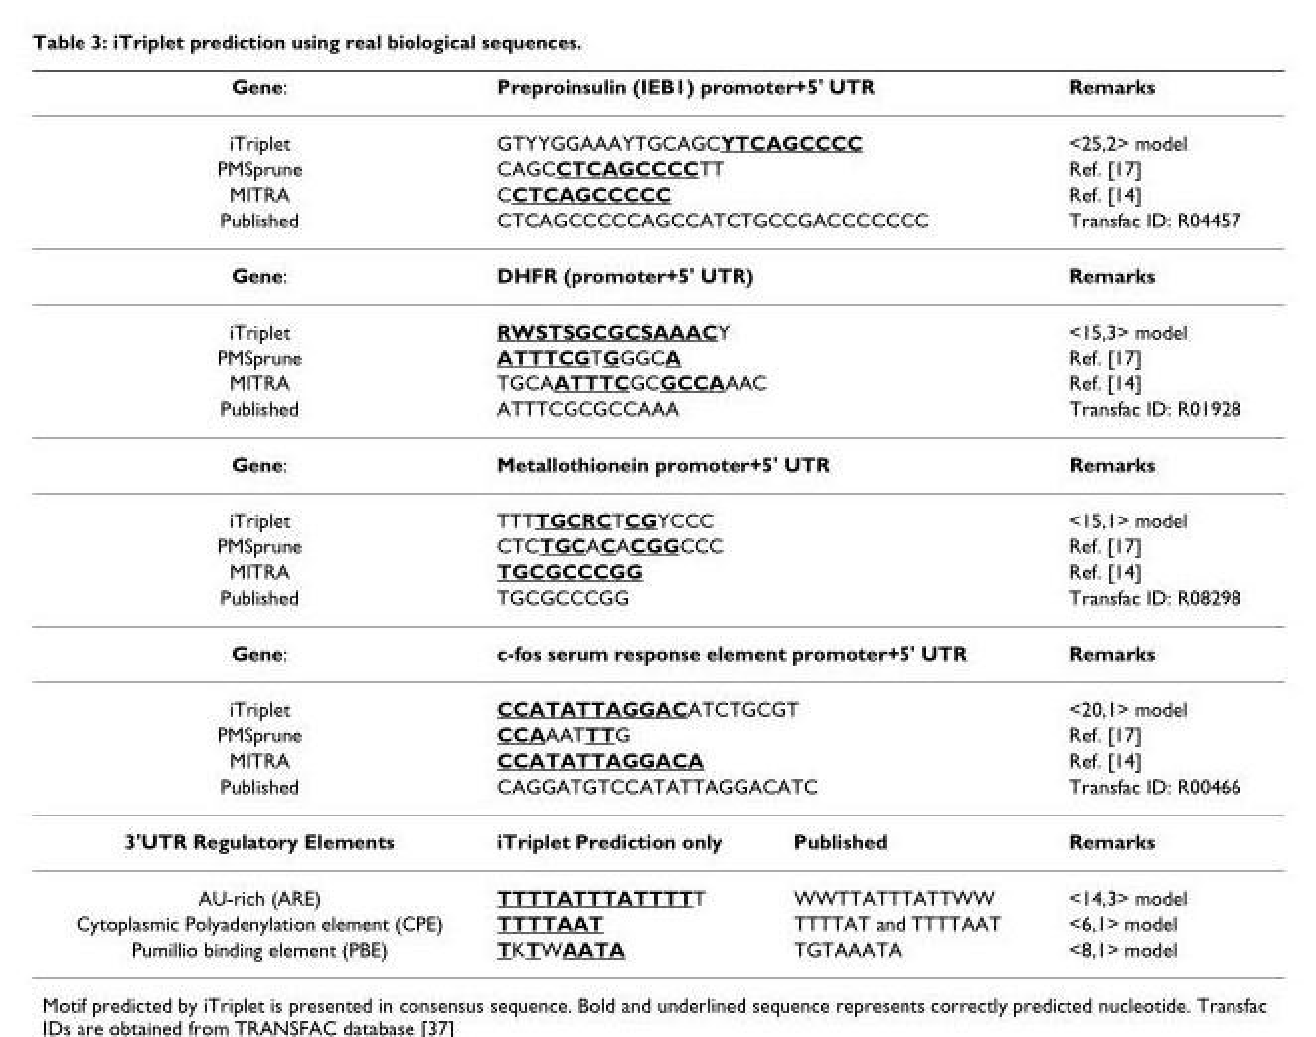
<table><thead><tr><td>Gene:</td><td colspan="2">Preproinsulin (IEB1) promoter+5&#x27; UTR</td><td>Remarks</td></tr></thead><tbody><tr><td>iTriplet</td><td colspan="2">GTYYGGAAAYTGCAGCYTCAGCCCC</td><td>&lt;25,2&gt; model</td></tr><tr><td>PMSprune</td><td colspan="2">CAGCCTCAGCCCCTT</td><td>Ref. [17]</td></tr><tr><td>MITRA</td><td colspan="2">CCTCAGCCCCC</td><td>Ref. [14]</td></tr><tr><td>Published</td><td colspan="2">CTCAGCCCCCAGCCATCTGCCGACCCCCCC</td><td>Transfac ID: R04457</td></tr><tr><td>Gene:</td><td colspan="2">DHFR (promoter+5&#x27; UTR)</td><td>Remarks</td></tr><tr><td>iTriplet</td><td colspan="2">RWSTSGCGCSAAACY</td><td>&lt;15,3&gt; model</td></tr><tr><td>PMSprune</td><td colspan="2">ATTTCGTGGGCA</td><td>Ref. [17]</td></tr><tr><td>MITRA</td><td colspan="2">TGCAATTTCGCGCCAAAC</td><td>Ref. [14]</td></tr><tr><td>Published</td><td colspan="2">ATTTCGCGCCAAA</td><td>Transfac ID: R01928</td></tr><tr><td>Gene:</td><td colspan="2">Metallothionein promoter+5&#x27; UTR</td><td>Remarks</td></tr><tr><td>iTriplet</td><td colspan="2">TTTTGCRCTCGYCCC</td><td>&lt;15,1&gt; model</td></tr><tr><td>PMSprune</td><td colspan="2">CTCTGCACACGGCCC</td><td>Ref. [17]</td></tr><tr><td>MITRA</td><td colspan="2">TGCGCCCGG</td><td>Ref. [14]</td></tr><tr><td>Published</td><td colspan="2">TGCGCCCGG</td><td>Transfac ID: R08298</td></tr><tr><td>Gene:</td><td colspan="2">c-fos serum response element promoter+5&#x27; UTR</td><td>Remarks</td></tr><tr><td>iTriplet</td><td colspan="2">CCATATTAGGACATCTGCGT</td><td>&lt;20,1&gt; model</td></tr><tr><td>PMSprune</td><td colspan="2">CCAAATTTG</td><td>Ref. [17]</td></tr><tr><td>MITRA</td><td colspan="2">CCATATTAGGACA</td><td>Ref. [14]</td></tr><tr><td>Published</td><td colspan="2">CAGGATGTCCATATTAGGACATC</td><td>Transfac ID: R00466</td></tr><tr><td>3&#x27;UTR Regulatory Elements</td><td>iTriplet Prediction only</td><td>Published</td><td>Remarks</td></tr><tr><td>AU-rich (ARE)</td><td>TTTTATTTATTTTT</td><td>WWTTATTTATTWW</td><td>&lt;14,3&gt; model</td></tr><tr><td>Cytoplasmic Polyadenylation element (CPE)</td><td>TTTTAAT</td><td>TTTTAT and TTTTAAT</td><td>&lt;6,1&gt; model</td></tr><tr><td>Pumillio binding element (PBE)</td><td>TKTWAATA</td><td>TGTAAATA</td><td>&lt;8,1&gt; model</td></tr></tbody></table>